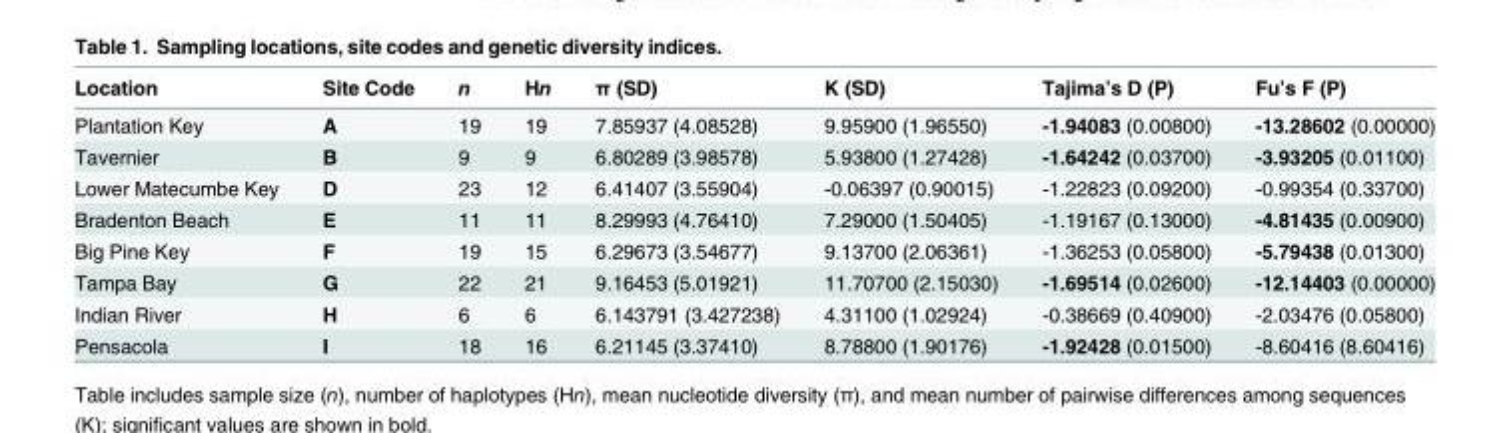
<table><thead><tr><td>Location</td><td>Site Code</td><td>n</td><td>Hn</td><td>π (SD)</td><td>K (SD)</td><td>Tajima’s D (P)</td><td>Fu’s F (P)</td></tr></thead><tbody><tr><td>Plantation Key</td><td>A</td><td>19</td><td>19</td><td>7.85937 (4.08528)</td><td>9.95900 (1.96550)</td><td>-1.94083 (0.00800)</td><td>-13.28602 (0.00000)</td></tr><tr><td>Tavernier</td><td>B</td><td>9</td><td>9</td><td>6.80289 (3.98578)</td><td>5.93800 (1.27428)</td><td>-1.64242 (0.03700)</td><td>-3.93205 (0.01100)</td></tr><tr><td>Lower Matecumbe Key</td><td>D</td><td>23</td><td>12</td><td>6.41407 (3.55904)</td><td>-0.06397 (0.90015)</td><td>-1.22823 (0.09200)</td><td>-0.99354 (0.33700)</td></tr><tr><td>Bradenton Beach</td><td>E</td><td>11</td><td>11</td><td>8.29993 (4.76410)</td><td>7.29000 (1.50405)</td><td>-1.19167 (0.13000)</td><td>-4.81435 (0.00900)</td></tr><tr><td>Big Pine Key</td><td>F</td><td>19</td><td>15</td><td>6.29673 (3.54677)</td><td>9.13700 (2.06361)</td><td>-1.36253 (0.05800)</td><td>-5.79438 (0.01300)</td></tr><tr><td>Tampa Bay</td><td>G</td><td>22</td><td>21</td><td>9.16453 (5.01921)</td><td>11.70700 (2.15030)</td><td>-1.69514 (0.02600)</td><td>-12.14403 (0.00000)</td></tr><tr><td>Indian River</td><td>H</td><td>6</td><td>6</td><td>6.143791 (3.427238)</td><td>4.31100 (1.02924)</td><td>-0.38669 (0.40900)</td><td>-2.03476 (0.05800)</td></tr><tr><td>Pensacola</td><td>I</td><td>18</td><td>16</td><td>6.21145 (3.37410)</td><td>8.78800 (1.90176)</td><td>-1.92428 (0.01500)</td><td>-8.60416 (8.60416)</td></tr></tbody></table>